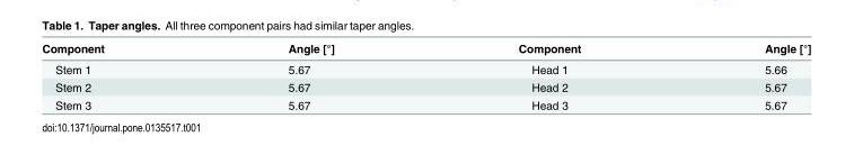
<table><thead><tr><td>Component</td><td>Angle [°]</td><td>Component</td><td>Angle [°]</td></tr></thead><tbody><tr><td>Stem 1</td><td>5.67</td><td>Head 1</td><td>5.66</td></tr><tr><td>Stem 2</td><td>5.67</td><td>Head 2</td><td>5.67</td></tr><tr><td>Stem 3</td><td>5.67</td><td>Head 3</td><td>5.67</td></tr></tbody></table>